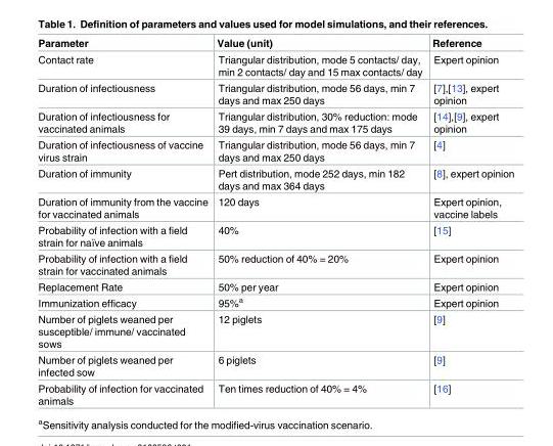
<table><thead><tr><td>Parameter</td><td>Value (unit)</td><td>Reference</td></tr></thead><tbody><tr><td>Contact rate</td><td>Triangular distribution, mode 5 contacts/ day, min 2 contacts/ day and 15 max contacts/ day</td><td>Expert opinion</td></tr><tr><td>Duration of infectiousness</td><td>Triangular distribution, mode 56 days, min 7 days and max 250 days</td><td>[7],[13], expert opinion</td></tr><tr><td>Duration of infectiousness for vaccinated animals</td><td>Triangular distribution, 30% reduction: mode 39 days, min 7 days and max 175 days</td><td>[14],[9], expert opinion</td></tr><tr><td>Duration of infectiousness of vaccine virus strain</td><td>Triangular distribution, mode 56 days, min 7 days and max 250 days</td><td>[4]</td></tr><tr><td>Duration of immunity</td><td>Pert distribution, mode 252 days, min 182 days and max 364 days</td><td>[8], expert opinion</td></tr><tr><td>Duration of immunity from the vaccine for vaccinated animals</td><td>120 days</td><td>Expert opinion, vaccine labels</td></tr><tr><td>Probability of infection with a field strain for naïve animals</td><td>40%</td><td>[15]</td></tr><tr><td>Probability of infection with a field strain for vaccinated animals</td><td>50% reduction of 40% = 20%</td><td>Expert opinion</td></tr><tr><td>Replacement Rate</td><td>50% per year</td><td>Expert opinion</td></tr><tr><td>Immunization efficacy</td><td>95%<sup>a</sup></td><td>Expert opinion</td></tr><tr><td>Number of piglets weaned per susceptible/ immune/ vaccinated sows</td><td>12 piglets</td><td>[9]</td></tr><tr><td>Number of piglets weaned per infected sow</td><td>6 piglets</td><td>[9]</td></tr><tr><td>Probability of infection for vaccinated animals</td><td>Ten times reduction of 40% = 4%</td><td>[16]</td></tr></tbody></table>